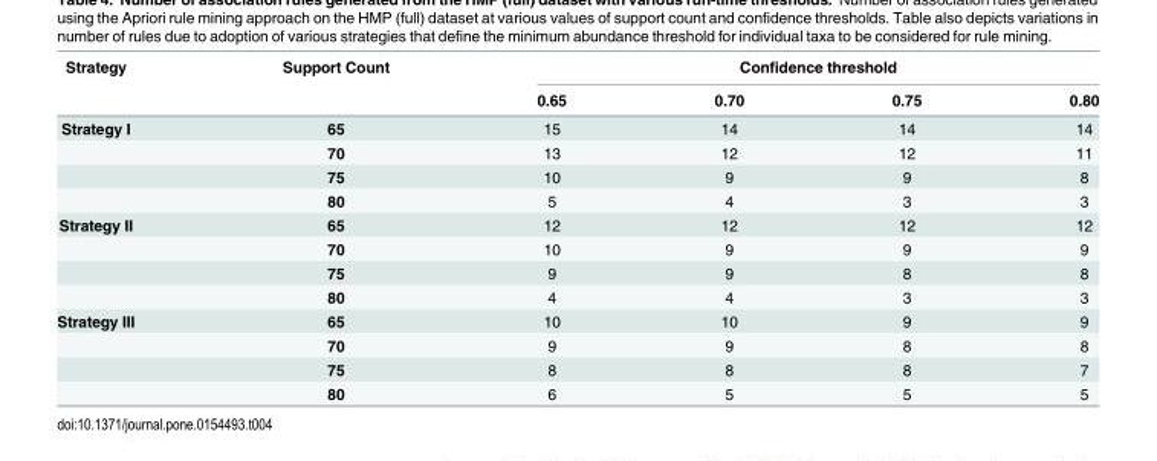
<table><thead><tr><td rowspan="2">Strategy</td><td rowspan="2">Support Count</td><td colspan="4">Confidence threshold</td></tr><tr><td>0.65</td><td>0.70</td><td>0.75</td><td>0.80</td></tr></thead><tbody><tr><td rowspan="4">Strategy I</td><td>65</td><td>15</td><td>14</td><td>14</td><td>14</td></tr><tr><td>70</td><td>13</td><td>12</td><td>12</td><td>11</td></tr><tr><td>75</td><td>10</td><td>9</td><td>9</td><td>8</td></tr><tr><td>80</td><td>5</td><td>4</td><td>3</td><td>3</td></tr><tr><td rowspan="4">Strategy II</td><td>65</td><td>12</td><td>12</td><td>12</td><td>12</td></tr><tr><td>70</td><td>10</td><td>9</td><td>9</td><td>9</td></tr><tr><td>75</td><td>9</td><td>9</td><td>8</td><td>8</td></tr><tr><td>80</td><td>4</td><td>4</td><td>3</td><td>3</td></tr><tr><td rowspan="4">Strategy III</td><td>65</td><td>10</td><td>10</td><td>9</td><td>9</td></tr><tr><td>70</td><td>9</td><td>9</td><td>8</td><td>8</td></tr><tr><td>75</td><td>8</td><td>8</td><td>8</td><td>7</td></tr><tr><td>80</td><td>6</td><td>5</td><td>5</td><td>5</td></tr></tbody></table>